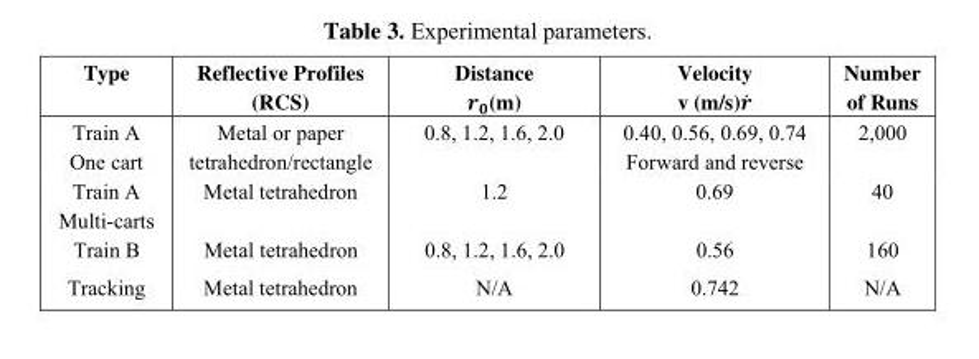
<table><thead><tr><td>Type</td><td>Reflective Profiles (RCS)</td><td>Distance r<sub>0</sub>(m)</td><td>Velocity v (m/s)��</td><td>Number of Runs</td></tr></thead><tbody><tr><td>Train A One cart</td><td>Metal or paper tetrahedron/rectangle</td><td>0.8, 1.2, 1.6, 2.0</td><td>0.40, 0.56, 0.69, 0.74 Forward and reverse</td><td>2,000</td></tr><tr><td>Train A Multi-carts</td><td>Metal tetrahedron</td><td>1.2</td><td>0.69</td><td>40</td></tr><tr><td>Train B</td><td>Metal tetrahedron</td><td>0.8, 1.2, 1.6, 2.0</td><td>0.56</td><td>160</td></tr><tr><td>Tracking</td><td>Metal tetrahedron</td><td>N/A</td><td>0.742</td><td>N/A</td></tr></tbody></table>